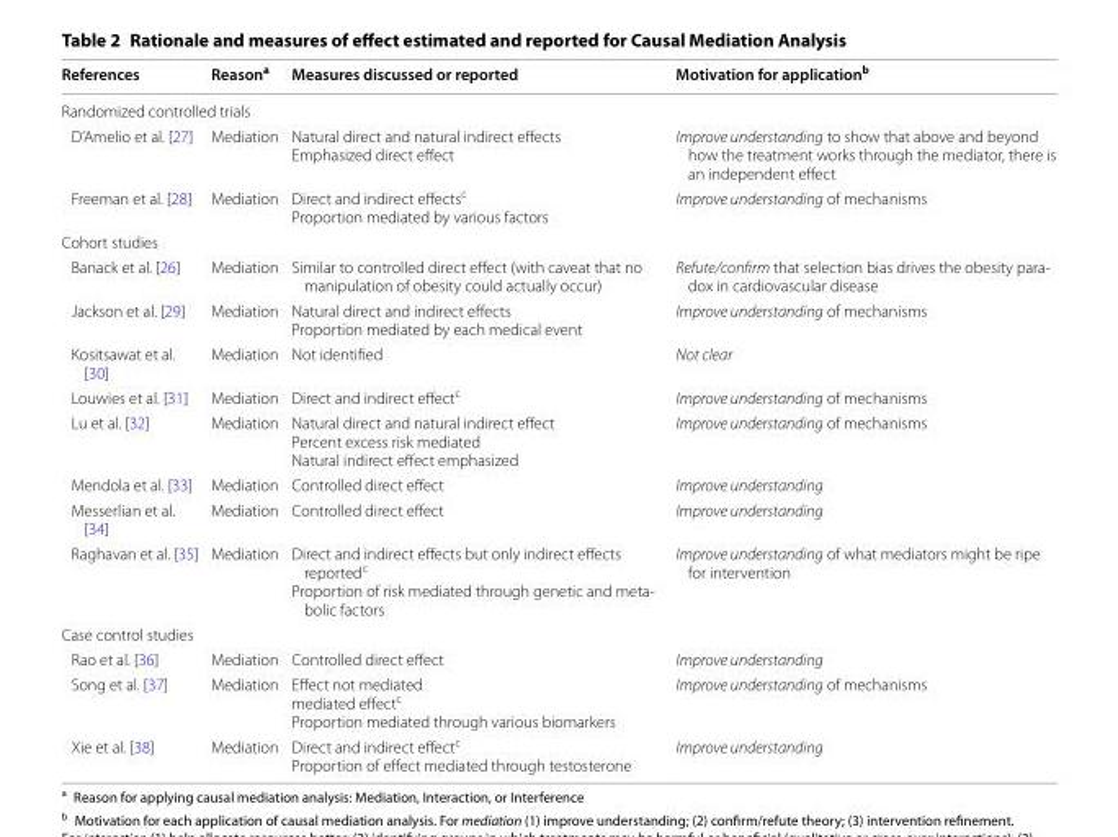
<table><thead><tr><td>References</td><td>Reason<sup>a</sup></td><td>Measures discussed or reported</td><td>Motivation for application<sup>b</sup></td></tr></thead><tbody><tr><td colspan="4">Randomized controlled trials</td></tr><tr><td>D’Amelio et al. [27]</td><td>Mediation</td><td>Natural direct and natural indirect effects Emphasized direct effect</td><td>Improve understanding to show that above and beyond how the treatment works through the mediator, there is an independent effect</td></tr><tr><td>Freeman et al. [28]</td><td>Mediation</td><td>Direct and indirect effects<sup>c</sup> Proportion mediated by various factors</td><td>Improve understanding of mechanisms</td></tr><tr><td colspan="4">Cohort studies</td></tr><tr><td>Banack et al. [26]</td><td>Mediation</td><td>Similar to controlled direct effect (with caveat that no manipulation of obesity could actually occur)</td><td>Refute/confirm that selection bias drives the obesity para‑ dox in cardiovascular disease</td></tr><tr><td>Jackson et al. [29]</td><td>Mediation</td><td>Natural direct and indirect effects Proportion mediated by each medical event</td><td>Improve understanding of mechanisms</td></tr><tr><td>Kositsawat et al. [30]</td><td>Mediation</td><td>Not identified</td><td>Not clear</td></tr><tr><td>Louwies et al. [31]</td><td>Mediation</td><td>Direct and indirect effect<sup>c</sup></td><td>Improve understanding of mechanisms</td></tr><tr><td>Lu et al. [32]</td><td>Mediation</td><td>Natural direct and natural indirect effect Percent excess risk mediated Natural indirect effect emphasized</td><td>Improve understanding of mechanisms</td></tr><tr><td>Mendola et al. [33]</td><td>Mediation</td><td>Controlled direct effect</td><td>Improve understanding</td></tr><tr><td>Messerlian et al. [34]</td><td>Mediation</td><td>Controlled direct effect</td><td>Improve understanding</td></tr><tr><td>Raghavan et al. [35]</td><td>Mediation</td><td>Direct and indirect effects but only indirect effects reportedc Proportion of risk mediated through genetic and meta‑ bolic factors</td><td>Improve understanding of what mediators might be ripe for intervention</td></tr><tr><td colspan="4">Case control studies</td></tr><tr><td>Rao et al. [36]</td><td>Mediation</td><td>Controlled direct effect</td><td>Improve understanding</td></tr><tr><td>Song et al. [37]</td><td>Mediation</td><td>Effect not mediated mediated effect<sup>c</sup> Proportion mediated through various biomarkers</td><td>Improve understanding of mechanisms</td></tr><tr><td>Xie et al. [38]</td><td>Mediation</td><td>Direct and indirect effect<sup>c</sup> Proportion of effect mediated through testosterone</td><td>Improve understanding</td></tr></tbody></table>